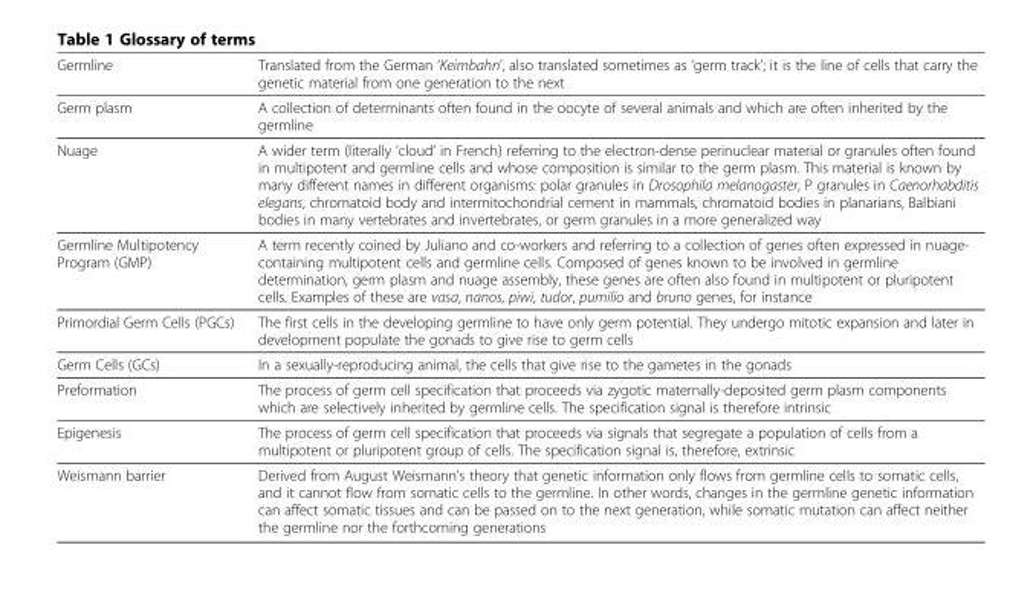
<table><thead><tr><td>Germline</td><td>Translated from the German ‘Keimbahn’, also translated sometimes as ‘germ track’; it is the line of cells that carry the genetic material from one generation to the next</td></tr></thead><tbody><tr><td>Germ plasm</td><td>A collection of determinants often found in the oocyte of several animals and which are often inherited by the germline</td></tr><tr><td>Nuage</td><td>A wider term (literally ‘cloud’ in French) referring to the electron-dense perinuclear material or granules often found in multipotent and germline cells and whose composition is similar to the germ plasm. This material is known by many different names in different organisms: polar granules in Drosophila melanogaster, P granules in Caenorhabditis elegans, chromatoid body and intermitochondrial cement in mammals, chromatoid bodies in planarians, Balbiani bodies in many vertebrates and invertebrates, or germ granules in a more generalized way</td></tr><tr><td>Germline Multipotency Program (GMP)</td><td>A term recently coined by Juliano and co-workers and referring to a collection of genes often expressed in nuage- containing multipotent cells and germline cells. Composed of genes known to be involved in germline determination, germ plasm and nuage assembly, these genes are often also found in multipotent or pluripotent cells. Examples of these are vasa, nanos, piwi, tudor, pumilio and bruno genes, for instance</td></tr><tr><td>Primordial Germ Cells (PGCs)</td><td>The first cells in the developing germline to have only germ potential. They undergo mitotic expansion and later in development populate the gonads to give rise to germ cells</td></tr><tr><td>Germ Cells (GCs)</td><td>In a sexually-reproducing animal, the cells that give rise to the gametes in the gonads</td></tr><tr><td>Preformation</td><td>The process of germ cell specification that proceeds via zygotic maternally-deposited germ plasm components which are selectively inherited by germline cells. The specification signal is therefore intrinsic</td></tr><tr><td>Epigenesis</td><td>The process of germ cell specification that proceeds via signals that segregate a population of cells from a multipotent or pluripotent group of cells. The specification signal is, therefore, extrinsic</td></tr><tr><td>Weismann barrier</td><td>Derived from August Weismann’s theory that genetic information only flows from germline cells to somatic cells, and it cannot flow from somatic cells to the germline. In other words, changes in the germline genetic information can affect somatic tissues and can be passed on to the next generation, while somatic mutation can affect neither the germline nor the forthcoming generations</td></tr></tbody></table>